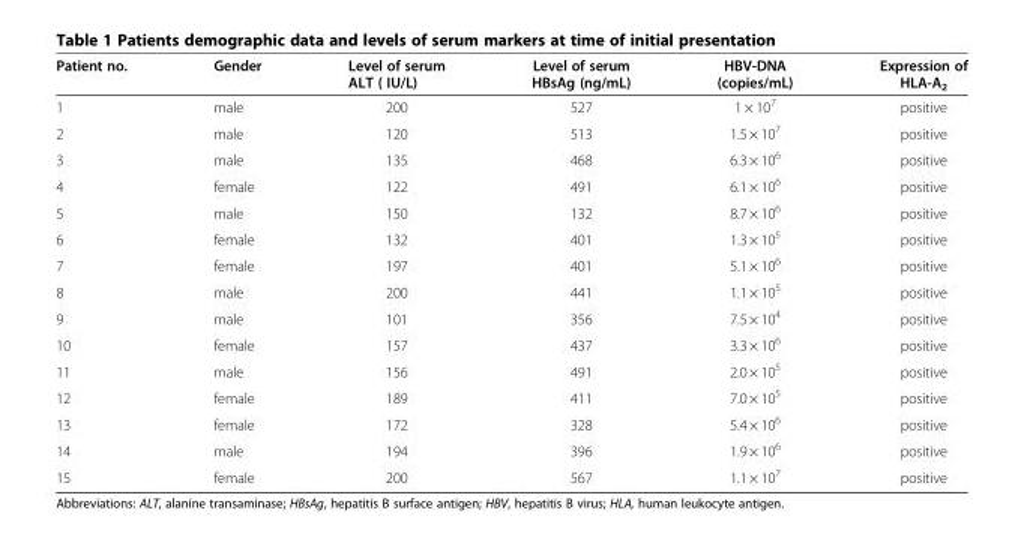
<table><thead><tr><td>Patient no.</td><td>Gender</td><td>Level of serum ALT ( IU/L)</td><td>Level of serum HBsAg (ng/mL)</td><td>HBV-DNA (copies/mL)</td><td>Expression of HLA-A<sub>2</sub></td></tr></thead><tbody><tr><td>1</td><td>male</td><td>200</td><td>527</td><td>1 × 10<sup>7</sup></td><td>positive</td></tr><tr><td>2</td><td>male</td><td>120</td><td>513</td><td>1.5 × 10<sup>7</sup></td><td>positive</td></tr><tr><td>3</td><td>male</td><td>135</td><td>468</td><td>6.3 × 10<sup>6</sup></td><td>positive</td></tr><tr><td>4</td><td>female</td><td>122</td><td>491</td><td>6.1 × 10<sup>6</sup></td><td>positive</td></tr><tr><td>5</td><td>male</td><td>150</td><td>132</td><td>8.7 × 10<sup>6</sup></td><td>positive</td></tr><tr><td>6</td><td>female</td><td>132</td><td>401</td><td>1.3 × 10<sup>5</sup></td><td>positive</td></tr><tr><td>7</td><td>female</td><td>197</td><td>401</td><td>5.1 × 10<sup>6</sup></td><td>positive</td></tr><tr><td>8</td><td>male</td><td>200</td><td>441</td><td>1.1 × 10<sup>5</sup></td><td>positive</td></tr><tr><td>9</td><td>male</td><td>101</td><td>356</td><td>7.5 × 10<sup>4</sup></td><td>positive</td></tr><tr><td>10</td><td>female</td><td>157</td><td>437</td><td>3.3 × 10<sup>6</sup></td><td>positive</td></tr><tr><td>11</td><td>male</td><td>156</td><td>491</td><td>2.0 × 10<sup>5</sup></td><td>positive</td></tr><tr><td>12</td><td>female</td><td>189</td><td>411</td><td>7.0 × 10<sup>5</sup></td><td>positive</td></tr><tr><td>13</td><td>female</td><td>172</td><td>328</td><td>5.4 × 10<sup>6</sup></td><td>positive</td></tr><tr><td>14</td><td>male</td><td>194</td><td>396</td><td>1.9 × 10<sup>6</sup></td><td>positive</td></tr><tr><td>15</td><td>female</td><td>200</td><td>567</td><td>1.1 × 10<sup>7</sup></td><td>positive</td></tr></tbody></table>